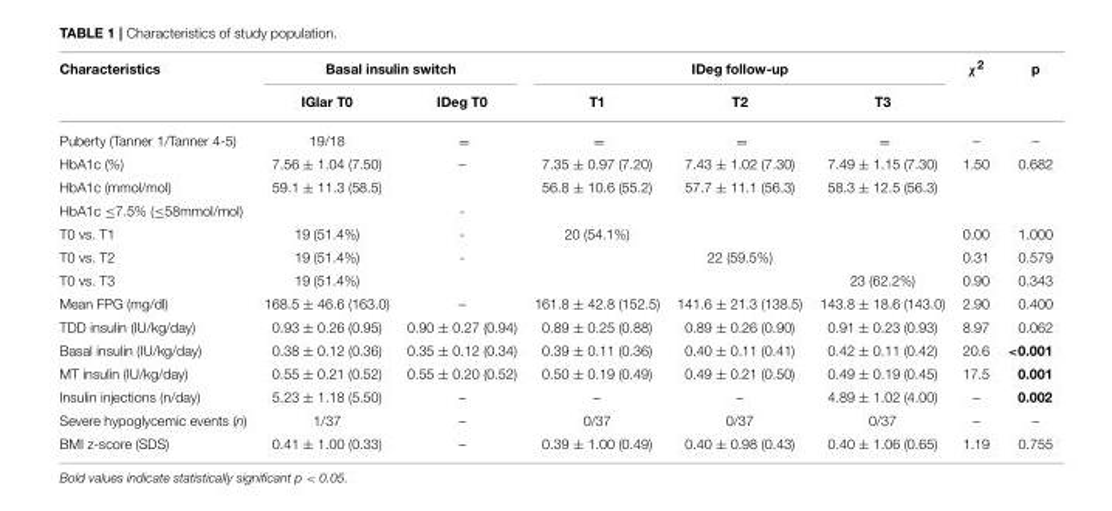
<table><thead><tr><td rowspan="2">Characteristics</td><td colspan="2">Basal insulin switch</td><td colspan="3">IDeg follow-up</td><td rowspan="2">χ<sup>2</sup></td><td rowspan="2">p</td></tr><tr><td>IGlar T0</td><td>IDeg T0</td><td>T1</td><td>T2</td><td>T3</td></tr></thead><tbody><tr><td>Puberty (Tanner 1/Tanner 4-5)</td><td>19/18</td><td>=</td><td>=</td><td>=</td><td>=</td><td>–</td><td>–</td></tr><tr><td>HbA1c (%)</td><td>7.56 ± 1.04 (7.50)</td><td>–</td><td>7.35 ± 0.97 (7.20)</td><td>7.43 ± 1.02 (7.30)</td><td>7.49 ± 1.15 (7.30)</td><td>1.50</td><td>0.682</td></tr><tr><td>HbA1c (mmol/mol)</td><td>59.1 ± 11.3 (58.5)</td><td></td><td>56.8 ± 10.6 (55.2)</td><td>57.7 ± 11.1 (56.3)</td><td>58.3 ± 12.5 (56.3)</td><td></td><td></td></tr><tr><td>HbA1c ≤7.5% (≤58mmol/mol)</td><td></td><td>-</td><td></td><td></td><td></td><td></td><td></td></tr><tr><td>T0 vs. T1</td><td>19 (51.4%)</td><td>-</td><td>20 (54.1%)</td><td></td><td></td><td>0.00</td><td>1.000</td></tr><tr><td>T0 vs. T2</td><td>19 (51.4%)</td><td>-</td><td></td><td>22 (59.5%)</td><td></td><td>0.31</td><td>0.579</td></tr><tr><td>T0 vs. T3</td><td>19 (51.4%)</td><td></td><td></td><td></td><td>23 (62.2%)</td><td>0.90</td><td>0.343</td></tr><tr><td>Mean FPG (mg/dl)</td><td>168.5 ± 46.6 (163.0)</td><td>–</td><td>161.8 ± 42.8 (152.5)</td><td>141.6 ± 21.3 (138.5)</td><td>143.8 ± 18.6 (143.0)</td><td>2.90</td><td>0.400</td></tr><tr><td>TDD insulin (IU/kg/day)</td><td>0.93 ± 0.26 (0.95)</td><td>0.90 ± 0.27 (0.94)</td><td>0.89 ± 0.25 (0.88)</td><td>0.89 ± 0.26 (0.90)</td><td>0.91 ± 0.23 (0.93)</td><td>8.97</td><td>0.062</td></tr><tr><td>Basal insulin (IU/kg/day)</td><td>0.38 ± 0.12 (0.36)</td><td>0.35 ± 0.12 (0.34)</td><td>0.39 ± 0.11 (0.36)</td><td>0.40 ± 0.11 (0.41)</td><td>0.42 ± 0.11 (0.42)</td><td>20.6</td><td>&lt;0.001</td></tr><tr><td>MT insulin (IU/kg/day)</td><td>0.55 ± 0.21 (0.52)</td><td>0.55 ± 0.20 (0.52)</td><td>0.50 ± 0.19 (0.49)</td><td>0.49 ± 0.21 (0.50)</td><td>0.49 ± 0.19 (0.45)</td><td>17.5</td><td>0.001</td></tr><tr><td>Insulin injections (n/day)</td><td>5.23 ± 1.18 (5.50)</td><td>–</td><td>–</td><td>–</td><td>4.89 ± 1.02 (4.00)</td><td>–</td><td>0.002</td></tr><tr><td>Severe hypoglycemic events (n)</td><td>1/37</td><td>–</td><td>0/37</td><td>0/37</td><td>0/37</td><td>–</td><td>–</td></tr><tr><td>BMI z-score (SDS)</td><td>0.41 ± 1.00 (0.33)</td><td>–</td><td>0.39 ± 1.00 (0.49)</td><td>0.40 ± 0.98 (0.43)</td><td>0.40 ± 1.06 (0.65)</td><td>1.19</td><td>0.755</td></tr></tbody></table>